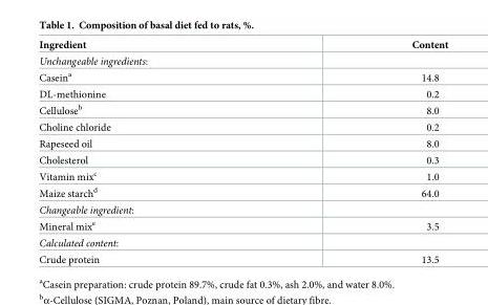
<table><thead><tr><td>Ingredient</td><td>Content</td></tr></thead><tbody><tr><td colspan="2">Unchangeable ingredients:</td></tr><tr><td>Casein<sup>a</sup></td><td>14.8</td></tr><tr><td>DL-methionine</td><td>0.2</td></tr><tr><td>Cellulose<sup>b</sup></td><td>8.0</td></tr><tr><td>Choline chloride</td><td>0.2</td></tr><tr><td>Rapeseed oil</td><td>8.0</td></tr><tr><td>Cholesterol</td><td>0.3</td></tr><tr><td>Vitamin mix<sup>c</sup></td><td>1.0</td></tr><tr><td>Maize starch<sup>d</sup></td><td>64.0</td></tr><tr><td colspan="2">Changeable ingredient:</td></tr><tr><td>Mineral mix<sup>e</sup></td><td>3.5</td></tr><tr><td colspan="2">Calculated content:</td></tr><tr><td>Crude protein</td><td>13.5</td></tr></tbody></table>